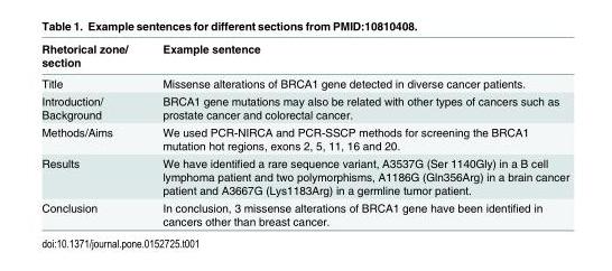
<table><thead><tr><td>Rhetorical zone/ section</td><td>Example sentence</td></tr></thead><tbody><tr><td>Title</td><td>Missense alterations of BRCA1 gene detected in diverse cancer patients.</td></tr><tr><td>Introduction/ Background</td><td>BRCA1 gene mutations may also be related with other types of cancers such as prostate cancer and colorectal cancer.</td></tr><tr><td>Methods/Aims</td><td>We used PCR-NIRCA and PCR-SSCP methods for screening the BRCA1 mutation hot regions, exons 2, 5, 11, 16 and 20.</td></tr><tr><td>Results</td><td>We have identified a rare sequence variant, A3537G (Ser 1140Gly) in a B cell lymphoma patient and two polymorphisms, A1186G (Gln356Arg) in a brain cancer patient and A3667G (Lys1183Arg) in a germline tumor patient.</td></tr><tr><td>Conclusion</td><td>In conclusion, 3 missense alterations of BRCA1 gene have been identified in cancers other than breast cancer.</td></tr></tbody></table>